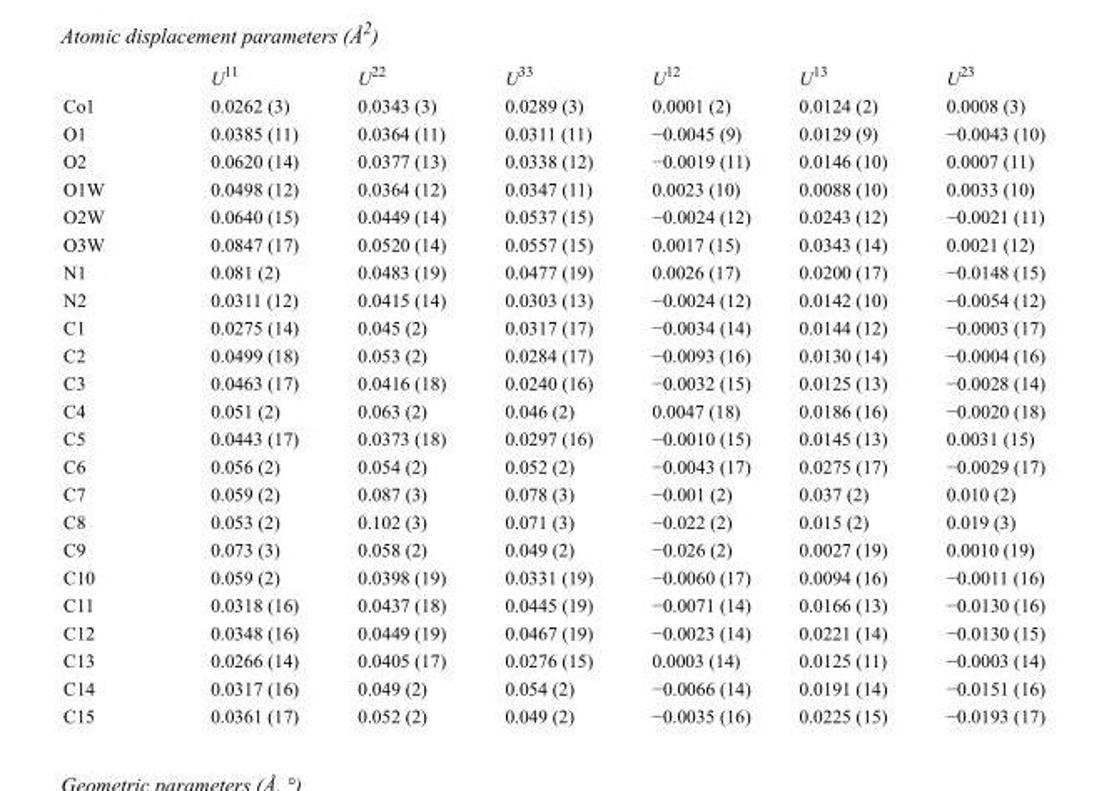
<table><thead><tr><td></td><td>U<sup>11</sup></td><td>U<sup>22</sup></td><td>U<sup>33</sup></td><td>U<sup>12</sup></td><td>U<sup>13</sup></td><td>U<sup>23</sup></td></tr></thead><tbody><tr><td>Co1</td><td>0.0262 (3)</td><td>0.0343 (3)</td><td>0.0289 (3)</td><td>0.0001 (2)</td><td>0.0124 (2)</td><td>0.0008 (3)</td></tr><tr><td>O1</td><td>0.0385 (11)</td><td>0.0364 (11)</td><td>0.0311 (11)</td><td>−0.0045 (9)</td><td>0.0129 (9)</td><td>−0.0043 (10)</td></tr><tr><td>O2</td><td>0.0620 (14)</td><td>0.0377 (13)</td><td>0.0338 (12)</td><td>−0.0019 (11)</td><td>0.0146 (10)</td><td>0.0007 (11)</td></tr><tr><td>O1W</td><td>0.0498 (12)</td><td>0.0364 (12)</td><td>0.0347 (11)</td><td>0.0023 (10)</td><td>0.0088 (10)</td><td>0.0033 (10)</td></tr><tr><td>O2W</td><td>0.0640 (15)</td><td>0.0449 (14)</td><td>0.0537 (15)</td><td>−0.0024 (12)</td><td>0.0243 (12)</td><td>−0.0021 (11)</td></tr><tr><td>O3W</td><td>0.0847 (17)</td><td>0.0520 (14)</td><td>0.0557 (15)</td><td>0.0017 (15)</td><td>0.0343 (14)</td><td>0.0021 (12)</td></tr><tr><td>N1</td><td>0.081 (2)</td><td>0.0483 (19)</td><td>0.0477 (19)</td><td>0.0026 (17)</td><td>0.0200 (17)</td><td>−0.0148 (15)</td></tr><tr><td>N2</td><td>0.0311 (12)</td><td>0.0415 (14)</td><td>0.0303 (13)</td><td>−0.0024 (12)</td><td>0.0142 (10)</td><td>−0.0054 (12)</td></tr><tr><td>C1</td><td>0.0275 (14)</td><td>0.045 (2)</td><td>0.0317 (17)</td><td>−0.0034 (14)</td><td>0.0144 (12)</td><td>−0.0003 (17)</td></tr><tr><td>C2</td><td>0.0499 (18)</td><td>0.053 (2)</td><td>0.0284 (17)</td><td>−0.0093 (16)</td><td>0.0130 (14)</td><td>−0.0004 (16)</td></tr><tr><td>C3</td><td>0.0463 (17)</td><td>0.0416 (18)</td><td>0.0240 (16)</td><td>−0.0032 (15)</td><td>0.0125 (13)</td><td>−0.0028 (14)</td></tr><tr><td>C4</td><td>0.051 (2)</td><td>0.063 (2)</td><td>0.046 (2)</td><td>0.0047 (18)</td><td>0.0186 (16)</td><td>−0.0020 (18)</td></tr><tr><td>C5</td><td>0.0443 (17)</td><td>0.0373 (18)</td><td>0.0297 (16)</td><td>−0.0010 (15)</td><td>0.0145 (13)</td><td>0.0031 (15)</td></tr><tr><td>C6</td><td>0.056 (2)</td><td>0.054 (2)</td><td>0.052 (2)</td><td>−0.0043 (17)</td><td>0.0275 (17)</td><td>−0.0029 (17)</td></tr><tr><td>C7</td><td>0.059 (2)</td><td>0.087 (3)</td><td>0.078 (3)</td><td>−0.001 (2)</td><td>0.037 (2)</td><td>0.010 (2)</td></tr><tr><td>C8</td><td>0.053 (2)</td><td>0.102 (3)</td><td>0.071 (3)</td><td>−0.022 (2)</td><td>0.015 (2)</td><td>0.019 (3)</td></tr><tr><td>C9</td><td>0.073 (3)</td><td>0.058 (2)</td><td>0.049 (2)</td><td>−0.026 (2)</td><td>0.0027 (19)</td><td>0.0010 (19)</td></tr><tr><td>C10</td><td>0.059 (2)</td><td>0.0398 (19)</td><td>0.0331 (19)</td><td>−0.0060 (17)</td><td>0.0094 (16)</td><td>−0.0011 (16)</td></tr><tr><td>C11</td><td>0.0318 (16)</td><td>0.0437 (18)</td><td>0.0445 (19)</td><td>−0.0071 (14)</td><td>0.0166 (13)</td><td>−0.0130 (16)</td></tr><tr><td>C12</td><td>0.0348 (16)</td><td>0.0449 (19)</td><td>0.0467 (19)</td><td>−0.0023 (14)</td><td>0.0221 (14)</td><td>−0.0130 (15)</td></tr><tr><td>C13</td><td>0.0266 (14)</td><td>0.0405 (17)</td><td>0.0276 (15)</td><td>0.0003 (14)</td><td>0.0125 (11)</td><td>−0.0003 (14)</td></tr><tr><td>C14</td><td>0.0317 (16)</td><td>0.049 (2)</td><td>0.054 (2)</td><td>−0.0066 (14)</td><td>0.0191 (14)</td><td>−0.0151 (16)</td></tr><tr><td>C15</td><td>0.0361 (17)</td><td>0.052 (2)</td><td>0.049 (2)</td><td>−0.0035 (16)</td><td>0.0225 (15)</td><td>−0.0193 (17)</td></tr></tbody></table>